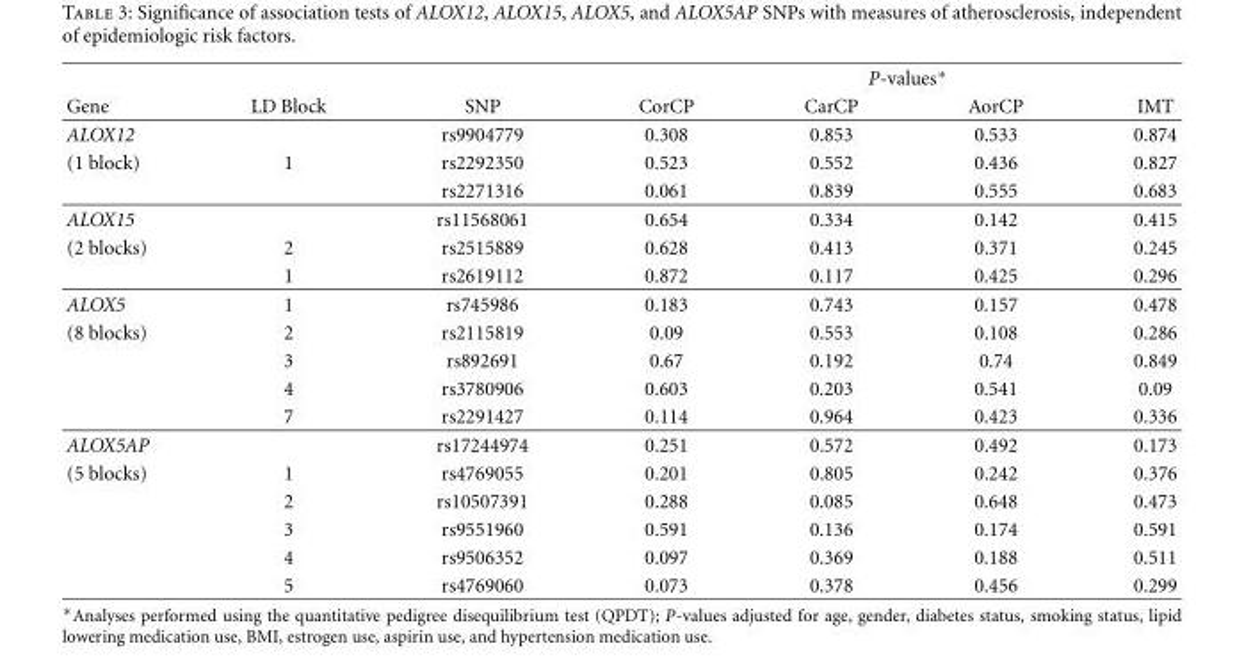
<table><thead><tr><td rowspan="2">Gene</td><td rowspan="2">LD Block</td><td rowspan="2">SNP</td><td colspan="4">P-values∗</td></tr><tr><td>CorCP</td><td>CarCP</td><td>AorCP</td><td>IMT</td></tr></thead><tbody><tr><td>ALOX12</td><td></td><td>rs9904779</td><td>0.308</td><td>0.853</td><td>0.533</td><td>0.874</td></tr><tr><td rowspan="2">(1 block)</td><td>1</td><td>rs2292350</td><td>0.523</td><td>0.552</td><td>0.436</td><td>0.827</td></tr><tr><td></td><td>rs2271316</td><td>0.061</td><td>0.839</td><td>0.555</td><td>0.683</td></tr><tr><td>ALOX15</td><td></td><td>rs11568061</td><td>0.654</td><td>0.334</td><td>0.142</td><td>0.415</td></tr><tr><td rowspan="2">(2 blocks)</td><td>2</td><td>rs2515889</td><td>0.628</td><td>0.413</td><td>0.371</td><td>0.245</td></tr><tr><td>1</td><td>rs2619112</td><td>0.872</td><td>0.117</td><td>0.425</td><td>0.296</td></tr><tr><td>ALOX5</td><td>1</td><td>rs745986</td><td>0.183</td><td>0.743</td><td>0.157</td><td>0.478</td></tr><tr><td rowspan="4">(8 blocks)</td><td>2</td><td>rs2115819</td><td>0.09</td><td>0.553</td><td>0.108</td><td>0.286</td></tr><tr><td>3</td><td>rs892691</td><td>0.67</td><td>0.192</td><td>0.74</td><td>0.849</td></tr><tr><td>4</td><td>rs3780906</td><td>0.603</td><td>0.203</td><td>0.541</td><td>0.09</td></tr><tr><td>7</td><td>rs2291427</td><td>0.114</td><td>0.964</td><td>0.423</td><td>0.336</td></tr><tr><td>ALOX5AP</td><td></td><td>rs17244974</td><td>0.251</td><td>0.572</td><td>0.492</td><td>0.173</td></tr><tr><td rowspan="5">(5 blocks)</td><td>1</td><td>rs4769055</td><td>0.201</td><td>0.805</td><td>0.242</td><td>0.376</td></tr><tr><td>2</td><td>rs10507391</td><td>0.288</td><td>0.085</td><td>0.648</td><td>0.473</td></tr><tr><td>3</td><td>rs9551960</td><td>0.591</td><td>0.136</td><td>0.174</td><td>0.591</td></tr><tr><td>4</td><td>rs9506352</td><td>0.097</td><td>0.369</td><td>0.188</td><td>0.511</td></tr><tr><td>5</td><td>rs4769060</td><td>0.073</td><td>0.378</td><td>0.456</td><td>0.299</td></tr></tbody></table>